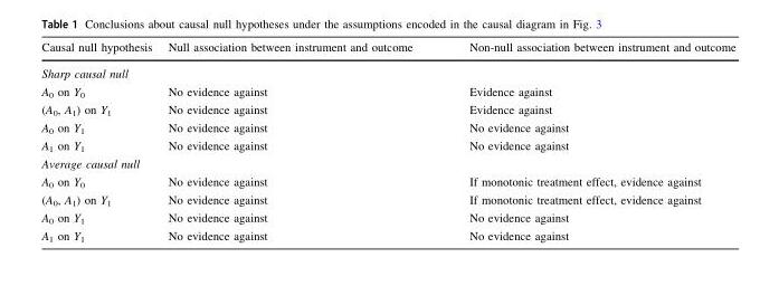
<table><thead><tr><td>Causal null hypothesis</td><td>Null association between instrument and outcome</td><td>Non-null association between instrument and outcome</td></tr></thead><tbody><tr><td colspan="3">Sharp causal null</td></tr><tr><td>A<sub>0</sub> on Y<sub>0</sub></td><td>No evidence against</td><td>Evidence against</td></tr><tr><td>(A<sub>0</sub>, A<sub>1</sub>) on Y<sub>1</sub></td><td>No evidence against</td><td>Evidence against</td></tr><tr><td>A<sub>0</sub> on Y<sub>1</sub></td><td>No evidence against</td><td>No evidence against</td></tr><tr><td>A<sub>1</sub> on Y<sub>1</sub></td><td>No evidence against</td><td>No evidence against</td></tr><tr><td colspan="3">Average causal null</td></tr><tr><td>A<sub>0</sub> on Y<sub>0</sub></td><td>No evidence against</td><td>If monotonic treatment effect, evidence against</td></tr><tr><td>(A<sub>0</sub>, A<sub>1</sub>) on Y<sub>1</sub></td><td>No evidence against</td><td>If monotonic treatment effect, evidence against</td></tr><tr><td>A<sub>0</sub> on Y<sub>1</sub></td><td>No evidence against</td><td>No evidence against</td></tr><tr><td>A<sub>1</sub> on Y<sub>1</sub></td><td>No evidence against</td><td>No evidence against</td></tr></tbody></table>